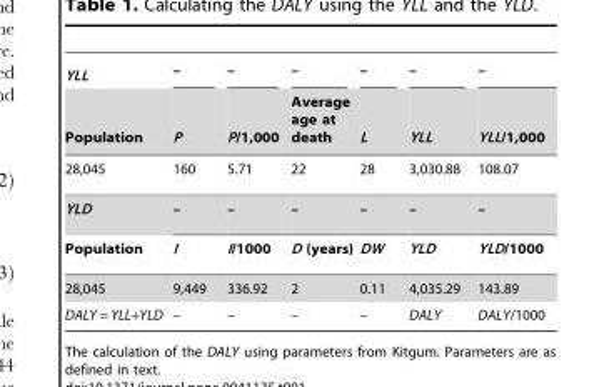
<table><thead><tr><td rowspan="2">YLL Population</td><td rowspan="2">– P</td><td rowspan="2">– P/1,000</td><td rowspan="2">– Average age at death</td><td rowspan="2">– L</td><td rowspan="2">– YLL</td><td rowspan="2">– YLL/1,000</td></tr><tr></tr></thead><tbody><tr><td>28,045</td><td>160</td><td>5.71</td><td>22</td><td>28</td><td>3,030.88</td><td>108.07</td></tr><tr><td>YLD</td><td>–</td><td>–</td><td>–</td><td>–</td><td>–</td><td>–</td></tr><tr><td>Population</td><td>I</td><td>I/1000</td><td>D (years)</td><td>DW</td><td>YLD</td><td>YLD/1000</td></tr><tr><td>28,045</td><td>9,449</td><td>336.92</td><td>2</td><td>0.11</td><td>4,035.29</td><td>143.89</td></tr><tr><td>DALY = YLL+YLD</td><td>–</td><td>–</td><td>–</td><td>–</td><td>DALY</td><td>DALY/1000</td></tr></tbody></table>